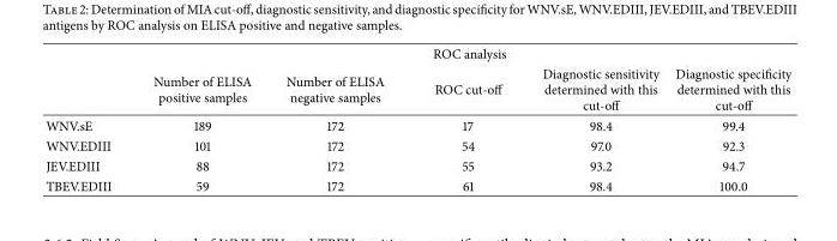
<table><thead><tr><td rowspan="2"></td><td colspan="5">ROC analysis</td></tr><tr><td>Number of ELISA positive samples</td><td>Number of ELISA negative samples</td><td>ROC cut-off</td><td>Diagnostic sensitivity determined with this cut-off</td><td>Diagnostic specificity determined with this cut-off</td></tr></thead><tbody><tr><td>WNV.sE</td><td>189</td><td>172</td><td>17</td><td>98.4</td><td>99.4</td></tr><tr><td>WNV.EDIII</td><td>101</td><td>172</td><td>54</td><td>97.0</td><td>92.3</td></tr><tr><td>JEV.EDIII</td><td>88</td><td>172</td><td>55</td><td>93.2</td><td>94.7</td></tr><tr><td>TBEV.EDIII</td><td>59</td><td>172</td><td>61</td><td>98.4</td><td>100.0</td></tr></tbody></table>